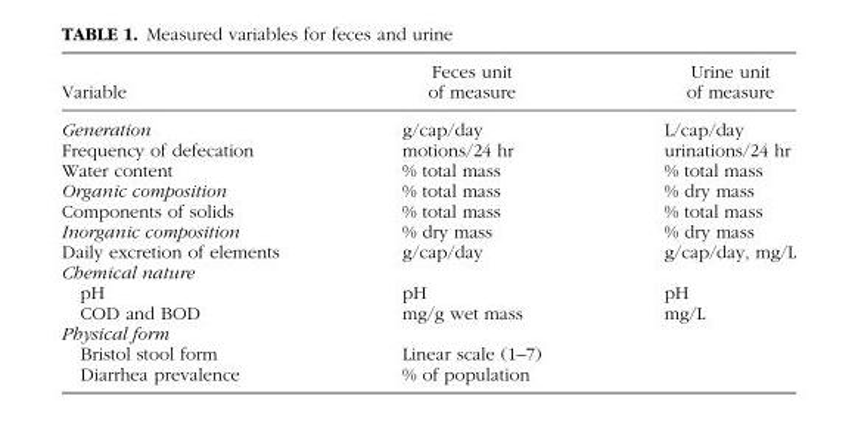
<table><thead><tr><td rowspan="2">Variable</td><td rowspan="2">Feces unit of measure</td><td rowspan="2">Urine unit of measure</td></tr><tr></tr></thead><tbody><tr><td>Generation</td><td>g/cap/day</td><td>L/cap/day</td></tr><tr><td>Frequency of defecation</td><td>motions/24 hr</td><td>urinations/24 hr</td></tr><tr><td>Water content</td><td>% total mass</td><td>% total mass</td></tr><tr><td>Organic composition</td><td>% total mass</td><td>% dry mass</td></tr><tr><td>Components of solids</td><td>% total mass</td><td>% total mass</td></tr><tr><td>Inorganic composition</td><td>% dry mass</td><td>% dry mass</td></tr><tr><td>Daily excretion of elements</td><td>g/cap/day</td><td>g/cap/day, mg/L</td></tr><tr><td colspan="3">Chemical nature</td></tr><tr><td>pH</td><td>pH</td><td>pH</td></tr><tr><td>COD and BOD</td><td>mg/g wet mass</td><td>mg/L</td></tr><tr><td colspan="3">Physical form</td></tr><tr><td>Bristol stool form</td><td>Linear scale (1–7)</td><td></td></tr><tr><td>Diarrhea prevalence</td><td>% of population</td><td></td></tr></tbody></table>